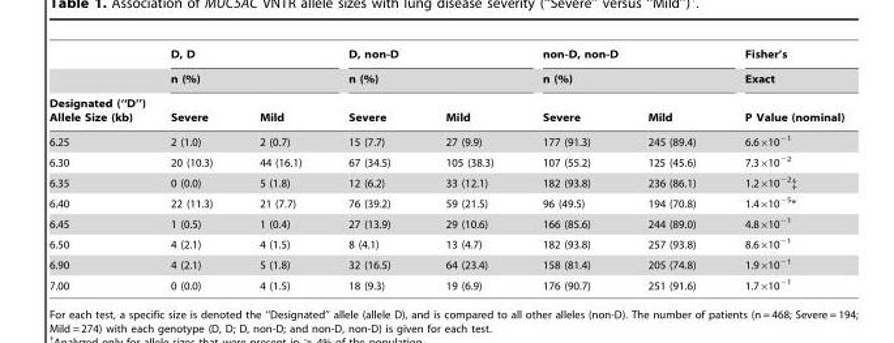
<table><thead><tr><td rowspan="3">Designated (‘‘D’’) Allele Size (kb)</td><td rowspan="2" colspan="2">D, D n (%)</td><td rowspan="2" colspan="2">D, non-D n (%)</td><td rowspan="2" colspan="2">non-D, non-D n (%)</td><td rowspan="3">Fisher’s Exact P Value (nominal)</td></tr><tr></tr><tr><td>Severe</td><td>Mild</td><td>Severe</td><td>Mild</td><td>Severe</td><td>Mild</td></tr></thead><tbody><tr><td>6.25</td><td>2 (1.0)</td><td>2 (0.7)</td><td>15 (7.7)</td><td>27 (9.9)</td><td>177 (91.3)</td><td>245 (89.4)</td><td>6.6×10<sup>−1</sup></td></tr><tr><td>6.30</td><td>20 (10.3)</td><td>44 (16.1)</td><td>67 (34.5)</td><td>105 (38.3)</td><td>107 (55.2)</td><td>125 (45.6)</td><td>7.3×10<sup>−2</sup></td></tr><tr><td>6.35</td><td>0 (0.0)</td><td>5 (1.8)</td><td>12 (6.2)</td><td>33 (12.1)</td><td>182 (93.8)</td><td>236 (86.1)</td><td>1.2×10<sup>−2</sup>‡</td></tr><tr><td>6.40</td><td>22 (11.3)</td><td>21 (7.7)</td><td>76 (39.2)</td><td>59 (21.5)</td><td>96 (49.5)</td><td>194 (70.8)</td><td>1.4×10<sup>−5</sup>*</td></tr><tr><td>6.45</td><td>1 (0.5)</td><td>1 (0.4)</td><td>27 (13.9)</td><td>29 (10.6)</td><td>166 (85.6)</td><td>244 (89.0)</td><td>4.8×10<sup>−1</sup></td></tr><tr><td>6.50</td><td>4 (2.1)</td><td>4 (1.5)</td><td>8 (4.1)</td><td>13 (4.7)</td><td>182 (93.8)</td><td>257 (93.8)</td><td>8.6×10<sup>−1</sup></td></tr><tr><td>6.90</td><td>4 (2.1)</td><td>5 (1.8)</td><td>32 (16.5)</td><td>64 (23.4)</td><td>158 (81.4)</td><td>205 (74.8)</td><td>1.9×10<sup>−1</sup></td></tr><tr><td>7.00</td><td>0 (0.0)</td><td>4 (1.5)</td><td>18 (9.3)</td><td>19 (6.9)</td><td>176 (90.7)</td><td>251 (91.6)</td><td>1.7×10<sup>−1</sup></td></tr></tbody></table>